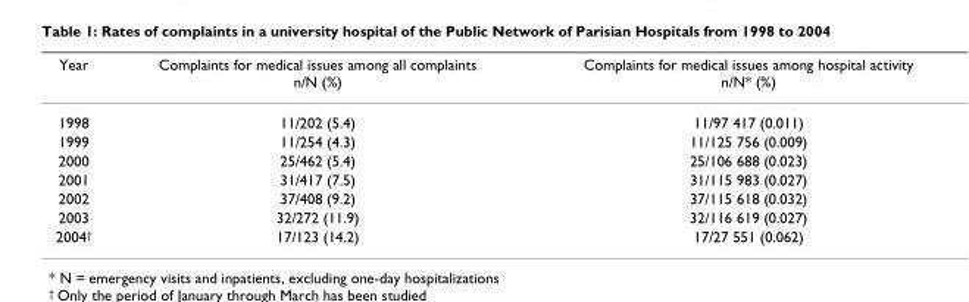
<table><thead><tr><td>Year</td><td>Complaints for medical issues among all complaints n/N (%)</td><td>Complaints for medical issues among hospital activity n/N* (%)</td></tr></thead><tbody><tr><td>1998</td><td>11/202 (5.4)</td><td>11/97 417 (0.011)</td></tr><tr><td>1999</td><td>11/254 (4.3)</td><td>11/125 756 (0.009)</td></tr><tr><td>2000</td><td>25/462 (5.4)</td><td>25/106 688 (0.023)</td></tr><tr><td>2001</td><td>31/417 (7.5)</td><td>31/115 983 (0.027)</td></tr><tr><td>2002</td><td>37/408 (9.2)</td><td>37/115 618 (0.032)</td></tr><tr><td>2003</td><td>32/272 (11.9)</td><td>32/116 619 (0.027)</td></tr><tr><td>2004<sup>†</sup></td><td>17/123 (14.2)</td><td>17/27 551 (0.062)</td></tr></tbody></table>